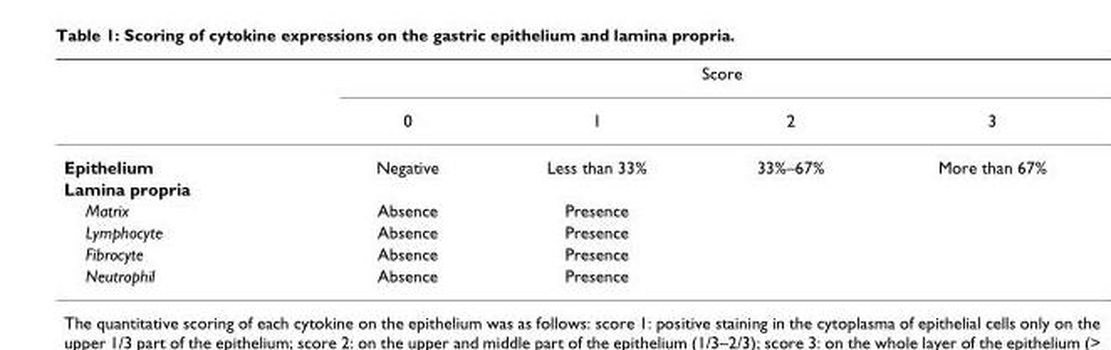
<table><thead><tr><td rowspan="2"></td><td colspan="4">Score</td></tr><tr><td>0</td><td>1</td><td>2</td><td>3</td></tr></thead><tbody><tr><td>Epithelium</td><td>Negative</td><td>Less than 33%</td><td>33%–67%</td><td>More than 67%</td></tr><tr><td colspan="5">Lamina propria</td></tr><tr><td>Matrix</td><td>Absence</td><td>Presence</td><td></td><td></td></tr><tr><td>Lymphocyte</td><td>Absence</td><td>Presence</td><td></td><td></td></tr><tr><td>Fibrocyte</td><td>Absence</td><td>Presence</td><td></td><td></td></tr><tr><td>Neutrophil</td><td>Absence</td><td>Presence</td><td></td><td></td></tr></tbody></table>